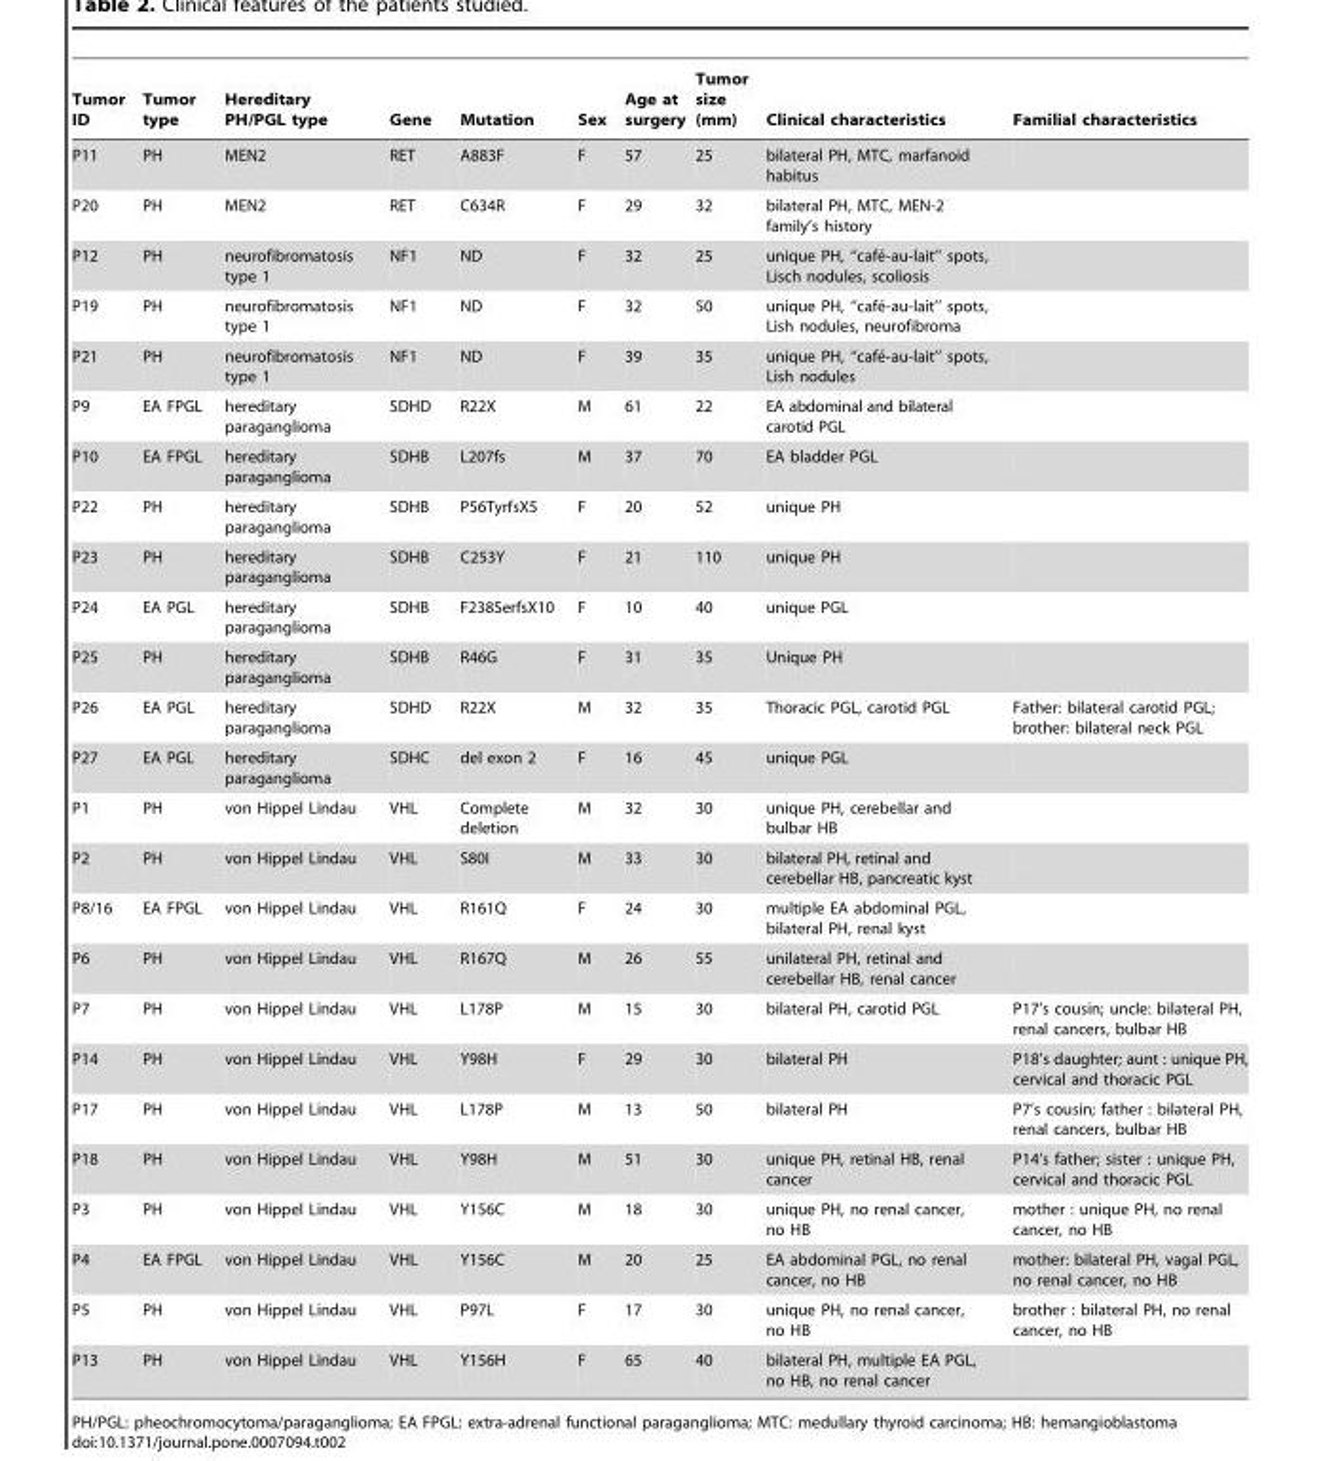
<table><thead><tr><td>Tumor ID</td><td>Tumor type</td><td>Hereditary PH/PGL type</td><td>Gene</td><td>Mutation</td><td>Sex</td><td>Age at surgery</td><td>Tumor size (mm)</td><td>Clinical characteristics</td><td>Familial characteristics</td></tr></thead><tbody><tr><td>P11</td><td>PH</td><td>MEN2</td><td>RET</td><td>A883F</td><td>F</td><td>57</td><td>25</td><td>bilateral PH, MTC, marfanoid habitus</td><td></td></tr><tr><td>P20</td><td>PH</td><td>MEN2</td><td>RET</td><td>C634R</td><td>F</td><td>29</td><td>32</td><td>bilateral PH, MTC, MEN-2 family’s history</td><td></td></tr><tr><td>P12</td><td>PH</td><td>neurofibromatosis type 1</td><td>NF1</td><td>ND</td><td>F</td><td>32</td><td>25</td><td>unique PH, ‘‘cafe´-au-lait’’ spots, Lisch nodules, scoliosis</td><td></td></tr><tr><td>P19</td><td>PH</td><td>neurofibromatosis type 1</td><td>NF1</td><td>ND</td><td>F</td><td>32</td><td>50</td><td>unique PH, ‘‘cafe´-au-lait’’ spots, Lish nodules, neurofibroma</td><td></td></tr><tr><td>P21</td><td>PH</td><td>neurofibromatosis type 1</td><td>NF1</td><td>ND</td><td>F</td><td>39</td><td>35</td><td>unique PH, ‘‘cafe´-au-lait’’ spots, Lish nodules</td><td></td></tr><tr><td>P9</td><td>EA FPGL</td><td>hereditary paraganglioma</td><td>SDHD</td><td>R22X</td><td>M</td><td>61</td><td>22</td><td>EA abdominal and bilateral carotid PGL</td><td></td></tr><tr><td>P10</td><td>EA FPGL</td><td>hereditary paraganglioma</td><td>SDHB</td><td>L207fs</td><td>M</td><td>37</td><td>70</td><td>EA bladder PGL</td><td></td></tr><tr><td>P22</td><td>PH</td><td>hereditary paraganglioma</td><td>SDHB</td><td>P56TyrfsX5</td><td>F</td><td>20</td><td>52</td><td>unique PH</td><td></td></tr><tr><td>P23</td><td>PH</td><td>hereditary paraganglioma</td><td>SDHB</td><td>C253Y</td><td>F</td><td>21</td><td>110</td><td>unique PH</td><td></td></tr><tr><td>P24</td><td>EA PGL</td><td>hereditary paraganglioma</td><td>SDHB</td><td>F238SerfsX10</td><td>F</td><td>10</td><td>40</td><td>unique PGL</td><td></td></tr><tr><td>P25</td><td>PH</td><td>hereditary paraganglioma</td><td>SDHB</td><td>R46G</td><td>F</td><td>31</td><td>35</td><td>Unique PH</td><td></td></tr><tr><td>P26</td><td>EA PGL</td><td>hereditary paraganglioma</td><td>SDHD</td><td>R22X</td><td>M</td><td>32</td><td>35</td><td>Thoracic PGL, carotid PGL</td><td>Father: bilateral carotid PGL; brother: bilateral neck PGL</td></tr><tr><td>P27</td><td>EA PGL</td><td>hereditary paraganglioma</td><td>SDHC</td><td>del exon 2</td><td>F</td><td>16</td><td>45</td><td>unique PGL</td><td></td></tr><tr><td>P1</td><td>PH</td><td>von Hippel Lindau</td><td>VHL</td><td>Complete deletion</td><td>M</td><td>32</td><td>30</td><td>unique PH, cerebellar and bulbar HB</td><td></td></tr><tr><td>P2</td><td>PH</td><td>von Hippel Lindau</td><td>VHL</td><td>S80I</td><td>M</td><td>33</td><td>30</td><td>bilateral PH, retinal and cerebellar HB, pancreatic kyst</td><td></td></tr><tr><td>P8/16</td><td>EA FPGL</td><td>von Hippel Lindau</td><td>VHL</td><td>R161Q</td><td>F</td><td>24</td><td>30</td><td>multiple EA abdominal PGL, bilateral PH, renal kyst</td><td></td></tr><tr><td>P6</td><td>PH</td><td>von Hippel Lindau</td><td>VHL</td><td>R167Q</td><td>M</td><td>26</td><td>55</td><td>unilateral PH, retinal and cerebellar HB, renal cancer</td><td></td></tr><tr><td>P7</td><td>PH</td><td>von Hippel Lindau</td><td>VHL</td><td>L178P</td><td>M</td><td>15</td><td>30</td><td>bilateral PH, carotid PGL</td><td>P17’s cousin; uncle: bilateral PH, renal cancers, bulbar HB</td></tr><tr><td>P14</td><td>PH</td><td>von Hippel Lindau</td><td>VHL</td><td>Y98H</td><td>F</td><td>29</td><td>30</td><td>bilateral PH</td><td>P18’s daughter; aunt : unique PH, cervical and thoracic PGL</td></tr><tr><td>P17</td><td>PH</td><td>von Hippel Lindau</td><td>VHL</td><td>L178P</td><td>M</td><td>13</td><td>50</td><td>bilateral PH</td><td>P7’s cousin; father : bilateral PH, renal cancers, bulbar HB</td></tr><tr><td>P18</td><td>PH</td><td>von Hippel Lindau</td><td>VHL</td><td>Y98H</td><td>M</td><td>51</td><td>30</td><td>unique PH, retinal HB, renal cancer</td><td>P14’s father; sister : unique PH, cervical and thoracic PGL</td></tr><tr><td>P3</td><td>PH</td><td>von Hippel Lindau</td><td>VHL</td><td>Y156C</td><td>M</td><td>18</td><td>30</td><td>unique PH, no renal cancer, no HB</td><td>mother : unique PH, no renal cancer, no HB</td></tr><tr><td>P4</td><td>EA FPGL</td><td>von Hippel Lindau</td><td>VHL</td><td>Y156C</td><td>M</td><td>20</td><td>25</td><td>EA abdominal PGL, no renal cancer, no HB</td><td>mother: bilateral PH, vagal PGL, no renal cancer, no HB</td></tr><tr><td>P5</td><td>PH</td><td>von Hippel Lindau</td><td>VHL</td><td>P97L</td><td>F</td><td>17</td><td>30</td><td>unique PH, no renal cancer, no HB</td><td>brother : bilateral PH, no renal cancer, no HB</td></tr><tr><td>P13</td><td>PH</td><td>von Hippel Lindau</td><td>VHL</td><td>Y156H</td><td>F</td><td>65</td><td>40</td><td>bilateral PH, multiple EA PGL, no HB, no renal cancer</td><td></td></tr></tbody></table>